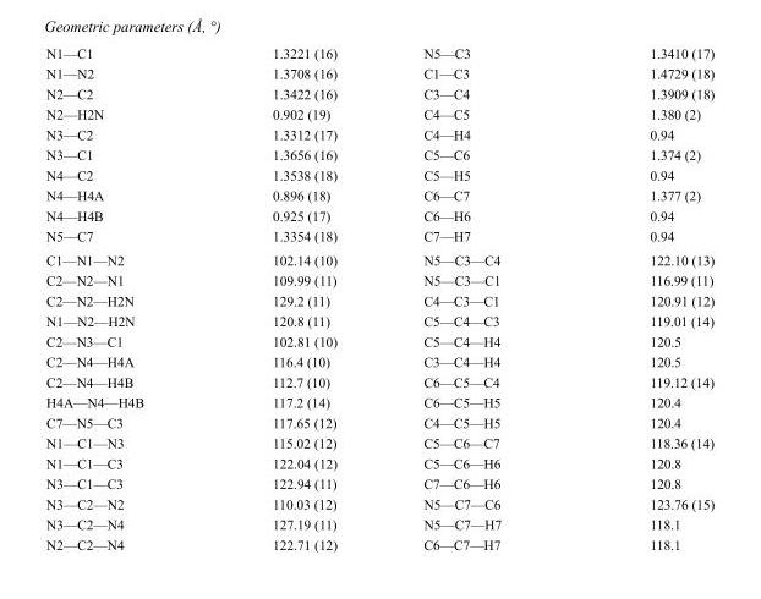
<table><tbody><tr><td>N1—C1</td><td>1.3221 (16)</td><td>N5—C3</td><td>1.3410 (17)</td></tr><tr><td>N1—N2</td><td>1.3708 (16)</td><td>C1—C3</td><td>1.4729 (18)</td></tr><tr><td>N2—C2</td><td>1.3422 (16)</td><td>C3—C4</td><td>1.3909 (18)</td></tr><tr><td>N2—H2N</td><td>0.902 (19)</td><td>C4—C5</td><td>1.380 (2)</td></tr><tr><td>N3—C2</td><td>1.3312 (17)</td><td>C4—H4</td><td>0.94</td></tr><tr><td>N3—C1</td><td>1.3656 (16)</td><td>C5—C6</td><td>1.374 (2)</td></tr><tr><td>N4—C2</td><td>1.3538 (18)</td><td>C5—H5</td><td>0.94</td></tr><tr><td>N4—H4A</td><td>0.896 (18)</td><td>C6—C7</td><td>1.377 (2)</td></tr><tr><td>N4—H4B</td><td>0.925 (17)</td><td>C6—H6</td><td>0.94</td></tr><tr><td>N5—C7</td><td>1.3354 (18)</td><td>C7—H7</td><td>0.94</td></tr><tr><td>C1—N1—N2</td><td>102.14 (10)</td><td>N5—C3—C4</td><td>122.10 (13)</td></tr><tr><td>C2—N2—N1</td><td>109.99 (11)</td><td>N5—C3—C1</td><td>116.99 (11)</td></tr><tr><td>C2—N2—H2N</td><td>129.2 (11)</td><td>C4—C3—C1</td><td>120.91 (12)</td></tr><tr><td>N1—N2—H2N</td><td>120.8 (11)</td><td>C5—C4—C3</td><td>119.01 (14)</td></tr><tr><td>C2—N3—C1</td><td>102.81 (10)</td><td>C5—C4—H4</td><td>120.5</td></tr><tr><td>C2—N4—H4A</td><td>116.4 (10)</td><td>C3—C4—H4</td><td>120.5</td></tr><tr><td>C2—N4—H4B</td><td>112.7 (10)</td><td>C6—C5—C4</td><td>119.12 (14)</td></tr><tr><td>H4A—N4—H4B</td><td>117.2 (14)</td><td>C6—C5—H5</td><td>120.4</td></tr><tr><td>C7—N5—C3</td><td>117.65 (12)</td><td>C4—C5—H5</td><td>120.4</td></tr><tr><td>N1—C1—N3</td><td>115.02 (12)</td><td>C5—C6—C7</td><td>118.36 (14)</td></tr><tr><td>N1—C1—C3</td><td>122.04 (12)</td><td>C5—C6—H6</td><td>120.8</td></tr><tr><td>N3—C1—C3</td><td>122.94 (11)</td><td>C7—C6—H6</td><td>120.8</td></tr><tr><td>N3—C2—N2</td><td>110.03 (12)</td><td>N5—C7—C6</td><td>123.76 (15)</td></tr><tr><td>N3—C2—N4</td><td>127.19 (11)</td><td>N5—C7—H7</td><td>118.1</td></tr><tr><td>N2—C2—N4</td><td>122.71 (12)</td><td>C6—C7—H7</td><td>118.1</td></tr></tbody></table>